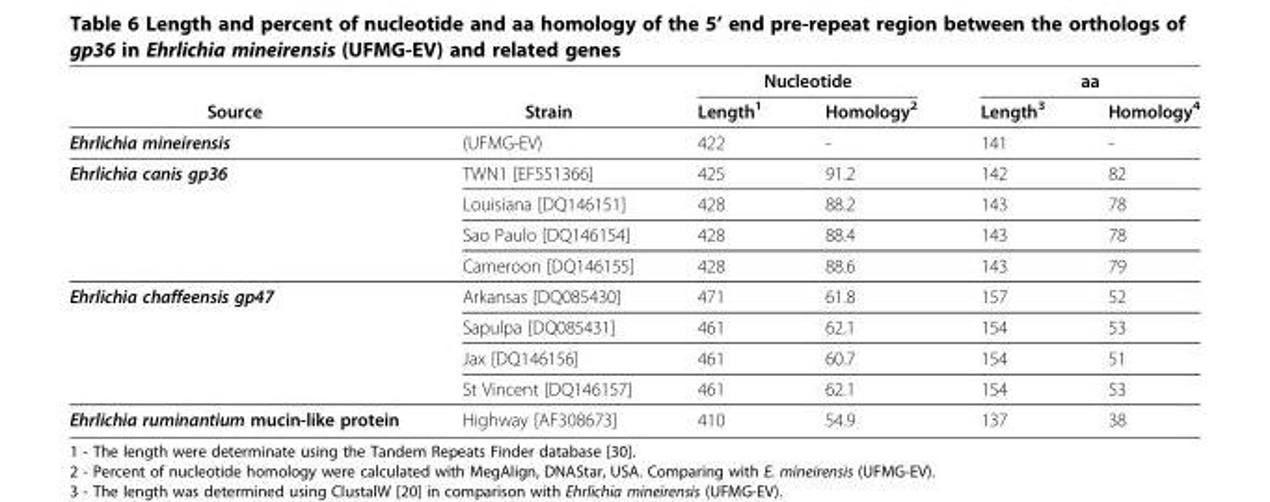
<table><thead><tr><td rowspan="2">Source</td><td rowspan="2">Strain</td><td colspan="2">Nucleotide</td><td colspan="2">aa</td></tr><tr><td>Length<sup>1</sup></td><td>Homology<sup>2</sup></td><td>Length<sup>3</sup></td><td>Homology<sup>4</sup></td></tr></thead><tbody><tr><td>Ehrlichia mineirensis</td><td>(UFMG-EV)</td><td>422</td><td>-</td><td>141</td><td>-</td></tr><tr><td rowspan="4">Ehrlichia canis gp36</td><td>TWN1 [EF551366]</td><td>425</td><td>91.2</td><td>142</td><td>82</td></tr><tr><td>Louisiana [DQ146151]</td><td>428</td><td>88.2</td><td>143</td><td>78</td></tr><tr><td>Sao Paulo [DQ146154]</td><td>428</td><td>88.4</td><td>143</td><td>78</td></tr><tr><td>Cameroon [DQ146155]</td><td>428</td><td>88.6</td><td>143</td><td>79</td></tr><tr><td rowspan="4">Ehrlichia chaffeensis gp47</td><td>Arkansas [DQ085430]</td><td>471</td><td>61.8</td><td>157</td><td>52</td></tr><tr><td>Sapulpa [DQ085431]</td><td>461</td><td>62.1</td><td>154</td><td>53</td></tr><tr><td>Jax [DQ146156]</td><td>461</td><td>60.7</td><td>154</td><td>51</td></tr><tr><td>St Vincent [DQ146157]</td><td>461</td><td>62.1</td><td>154</td><td>53</td></tr><tr><td>Ehrlichia ruminantium mucin-like protein</td><td>Highway [AF308673]</td><td>410</td><td>54.9</td><td>137</td><td>38</td></tr></tbody></table>